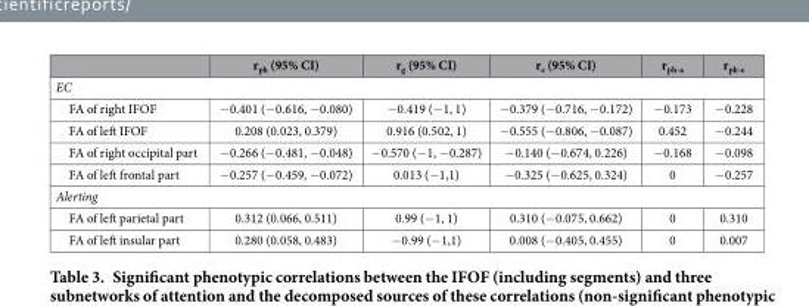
<table><thead><tr><td></td><td>r<sub>ph</sub> (95% CI)</td><td>r<sub>g</sub> (95% CI)</td><td>r<sub>e</sub> (95% CI)</td><td>r<sub>ph-a</sub></td><td>r<sub>ph-e</sub></td></tr></thead><tbody><tr><td colspan="6">EC</td></tr><tr><td>FA of right IFOF</td><td>− 0.401 (− 0.616, − 0.080)</td><td>− 0.419 (− 1, 1)</td><td>− 0.379 (− 0.716, − 0.172)</td><td>− 0.173</td><td>− 0.228</td></tr><tr><td>FA of left IFOF</td><td>0.208 (0.023, 0.379)</td><td>0.916 (0.502, 1)</td><td>− 0.555 (− 0.806, − 0.087)</td><td>0.452</td><td>− 0.244</td></tr><tr><td>FA of right occipital part</td><td>− 0.266 (− 0.481, − 0.048)</td><td>− 0.570 (− 1, − 0.287)</td><td>− 0.140 (− 0.674, 0.226)</td><td>− 0.168</td><td>− 0.098</td></tr><tr><td>FA of left frontal part</td><td>− 0.257 (− 0.459, − 0.072)</td><td>0.013 (− 1,1)</td><td>− 0.325 (− 0.625, 0.324)</td><td>0</td><td>− 0.257</td></tr><tr><td colspan="6">Alerting</td></tr><tr><td>FA of left parietal part</td><td>0.312 (0.066, 0.511)</td><td>0.99 (− 1, 1)</td><td>0.310 (− 0.075, 0.662)</td><td>0</td><td>0.310</td></tr><tr><td>FA of left insular part</td><td>0.280 (0.058, 0.483)</td><td>− 0.99 (− 1,1)</td><td>0.008 (− 0.405, 0.455)</td><td>0</td><td>0.007</td></tr></tbody></table>